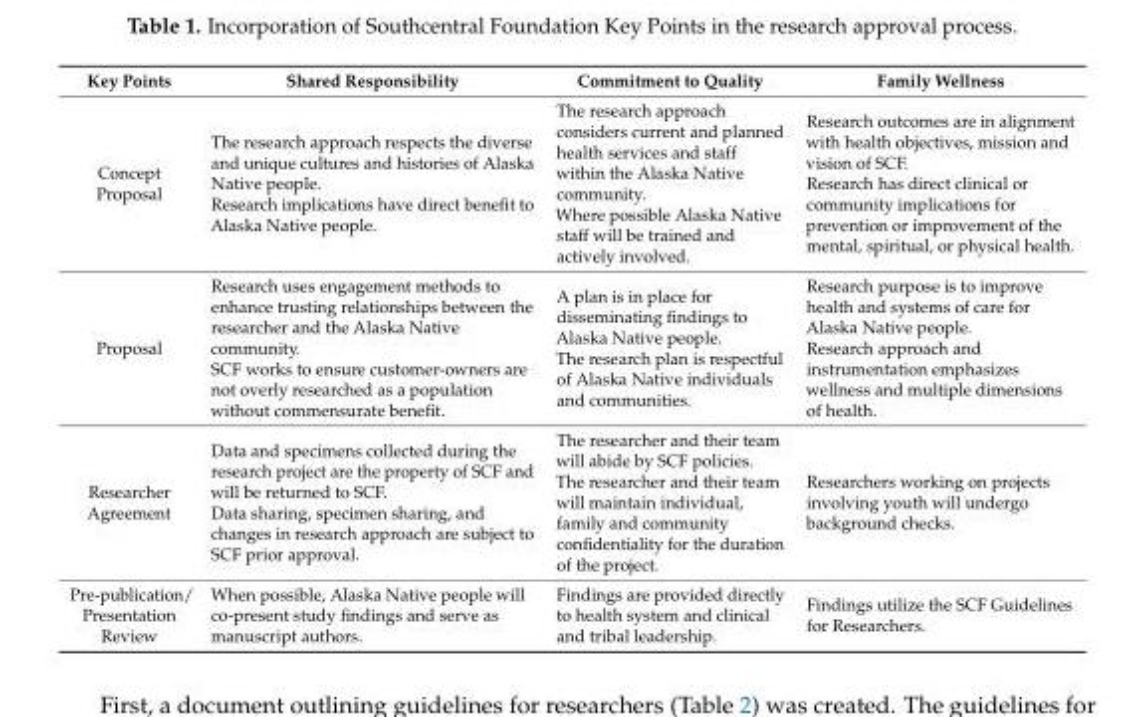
<table><thead><tr><td>Key Points</td><td>Shared Responsibility</td><td>Commitment to Quality</td><td>Family Wellness</td></tr></thead><tbody><tr><td>Concept Proposal</td><td>The research approach respects the diverse and unique cultures and histories of Alaska Native people. Research implications have direct benefit to Alaska Native people.</td><td>The research approach considers current and planned health services and staff within the Alaska Native community. Where possible Alaska Native staff will be trained and actively involved.</td><td>Research outcomes are in alignment with health objectives, mission and vision of SCF. Research has direct clinical or community implications for prevention or improvement of the mental, spiritual, or physical health.</td></tr><tr><td>Proposal</td><td>Research uses engagement methods to enhance trusting relationships between the researcher and the Alaska Native community. SCF works to ensure customer-owners are not overly researched as a population without commensurate benefit.</td><td>A plan is in place for disseminating findings to Alaska Native people. The research plan is respectful of Alaska Native individuals and communities.</td><td>Research purpose is to improve health and systems of care for Alaska Native people. Research approach and instrumentation emphasizes wellness and multiple dimensions of health.</td></tr><tr><td>Researcher Agreement</td><td>Data and specimens collected during the research project are the property of SCF and will be returned to SCF. Data sharing, specimen sharing, and changes in research approach are subject to SCF prior approval.</td><td>The researcher and their team will abide by SCF policies. The researcher and their team will maintain individual, family and community confidentiality for the duration of the project.</td><td>Researchers working on projects involving youth will undergo background checks.</td></tr><tr><td>Pre-publication/ Presentation Review</td><td>When possible, Alaska Native people will co-present study findings and serve as manuscript authors.</td><td>Findings are provided directly to health system and clinical and tribal leadership.</td><td>Findings utilize the SCF Guidelines for Researchers.</td></tr></tbody></table>